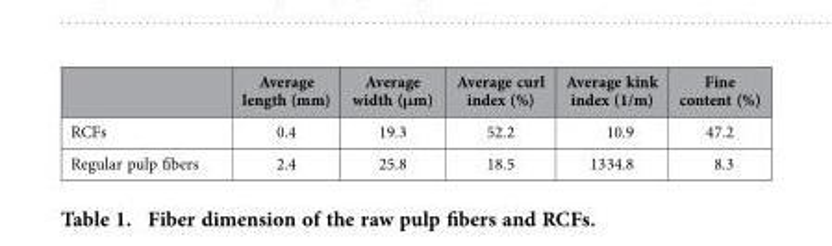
<table><thead><tr><td></td><td>Average length (mm)</td><td>Average width (μm)</td><td>Average curl index (%)</td><td>Average kink index (1/m)</td><td>Fine content (%)</td></tr></thead><tbody><tr><td>RCFs</td><td>0.4</td><td>19.3</td><td>52.2</td><td>10.9</td><td>47.2</td></tr><tr><td>Regular pulp fibers</td><td>2.4</td><td>25.8</td><td>18.5</td><td>1334.8</td><td>8.3</td></tr></tbody></table>